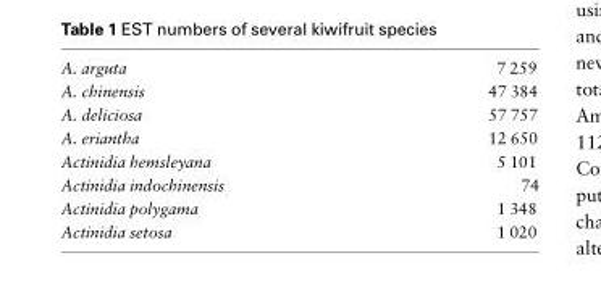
<table><tbody><tr><td>A. arguta</td><td>7 259</td></tr><tr><td>A. chinensis</td><td>47 384</td></tr><tr><td>A. deliciosa</td><td>57 757</td></tr><tr><td>A. eriantha</td><td>12 650</td></tr><tr><td>Actinidia hemsleyana</td><td>5 101</td></tr><tr><td>Actinidia indochinensis</td><td>74</td></tr><tr><td>Actinidia polygama</td><td>1 348</td></tr><tr><td>Actinidia setosa</td><td>1 020</td></tr></tbody></table>